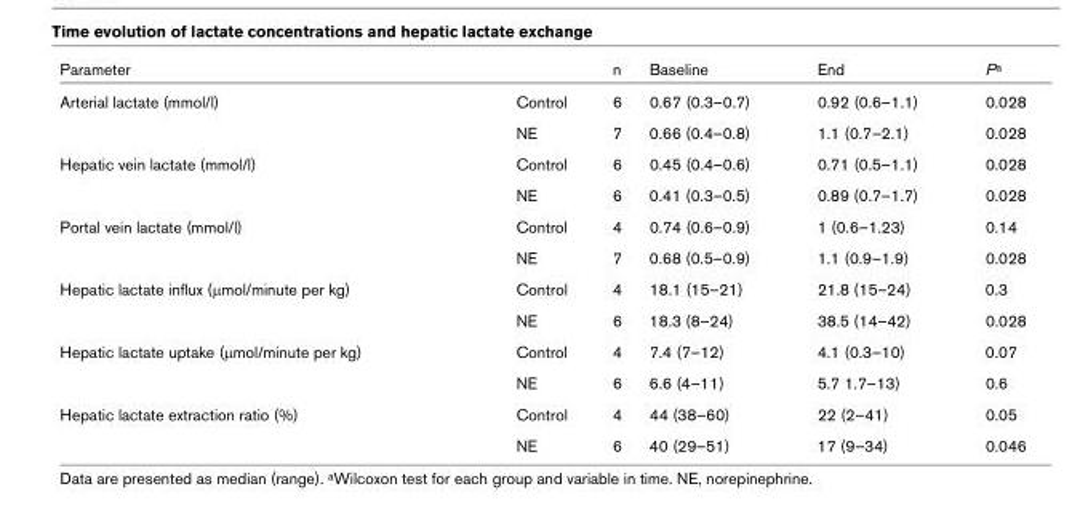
<table><thead><tr><td>Parameter</td><td></td><td>n</td><td>Baseline</td><td>End</td><td>P<sup>a</sup></td></tr></thead><tbody><tr><td rowspan="2">Arterial lactate (mmol/l)</td><td>Control</td><td>6</td><td>0.67 (0.3–0.7)</td><td>0.92 (0.6–1.1)</td><td>0.028</td></tr><tr><td>NE</td><td>7</td><td>0.66 (0.4–0.8)</td><td>1.1 (0.7–2.1)</td><td>0.028</td></tr><tr><td rowspan="2">Hepatic vein lactate (mmol/l)</td><td>Control</td><td>6</td><td>0.45 (0.4–0.6)</td><td>0.71 (0.5–1.1)</td><td>0.028</td></tr><tr><td>NE</td><td>6</td><td>0.41 (0.3–0.5)</td><td>0.89 (0.7–1.7)</td><td>0.028</td></tr><tr><td rowspan="2">Portal vein lactate (mmol/l)</td><td>Control</td><td>4</td><td>0.74 (0.6–0.9)</td><td>1 (0.6–1.23)</td><td>0.14</td></tr><tr><td>NE</td><td>7</td><td>0.68 (0.5–0.9)</td><td>1.1 (0.9–1.9)</td><td>0.028</td></tr><tr><td rowspan="2">Hepatic lactate influx (μmol/minute per kg)</td><td>Control</td><td>4</td><td>18.1 (15–21)</td><td>21.8 (15–24)</td><td>0.3</td></tr><tr><td>NE</td><td>6</td><td>18.3 (8–24)</td><td>38.5 (14–42)</td><td>0.028</td></tr><tr><td rowspan="2">Hepatic lactate uptake (μmol/minute per kg)</td><td>Control</td><td>4</td><td>7.4 (7–12)</td><td>4.1 (0.3–10)</td><td>0.07</td></tr><tr><td>NE</td><td>6</td><td>6.6 (4–11)</td><td>5.7 1.7–13)</td><td>0.6</td></tr><tr><td rowspan="2">Hepatic lactate extraction ratio (%)</td><td>Control</td><td>4</td><td>44 (38–60)</td><td>22 (2–41)</td><td>0.05</td></tr><tr><td>NE</td><td>6</td><td>40 (29–51)</td><td>17 (9–34)</td><td>0.046</td></tr></tbody></table>